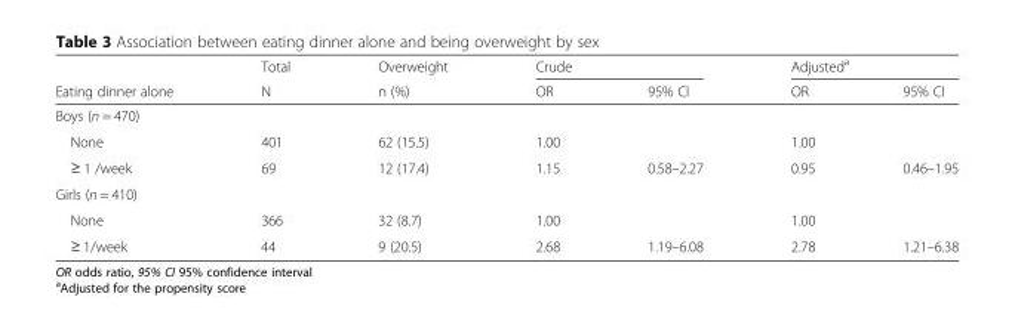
<table><thead><tr><td rowspan="2">Eating dinner alone</td><td rowspan="2">Total N</td><td rowspan="2">Overweight n (%)</td><td colspan="2">Crude</td><td colspan="2">Adjusted<sup>a</sup></td></tr><tr><td>OR</td><td>95% CI</td><td>OR</td><td>95% CI</td></tr></thead><tbody><tr><td colspan="7">Boys (n = 470)</td></tr><tr><td>None</td><td>401</td><td>62 (15.5)</td><td>1.00</td><td></td><td>1.00</td><td></td></tr><tr><td>≥ 1 /week</td><td>69</td><td>12 (17.4)</td><td>1.15</td><td>0.58–2.27</td><td>0.95</td><td>0.46–1.95</td></tr><tr><td colspan="7">Girls (n = 410)</td></tr><tr><td>None</td><td>366</td><td>32 (8.7)</td><td>1.00</td><td></td><td>1.00</td><td></td></tr><tr><td>≥ 1/week</td><td>44</td><td>9 (20.5)</td><td>2.68</td><td>1.19–6.08</td><td>2.78</td><td>1.21–6.38</td></tr></tbody></table>